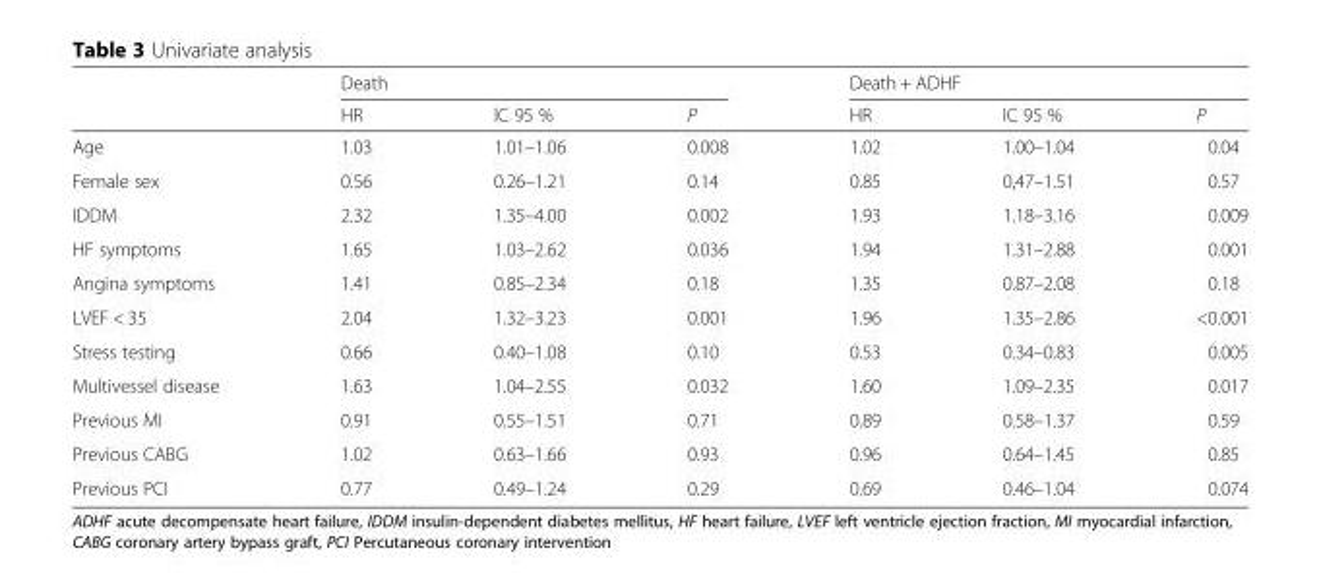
<table><thead><tr><td rowspan="2"></td><td colspan="3">Death</td><td colspan="3">Death + ADHF</td></tr><tr><td>HR</td><td>IC 95 %</td><td>P</td><td>HR</td><td>IC 95 %</td><td>P</td></tr></thead><tbody><tr><td>Age</td><td>1.03</td><td>1.01–1.06</td><td>0.008</td><td>1.02</td><td>1.00–1.04</td><td>0.04</td></tr><tr><td>Female sex</td><td>0.56</td><td>0.26–1.21</td><td>0.14</td><td>0.85</td><td>0,47–1.51</td><td>0.57</td></tr><tr><td>IDDM</td><td>2.32</td><td>1.35–4.00</td><td>0.002</td><td>1.93</td><td>1.18–3.16</td><td>0.009</td></tr><tr><td>HF symptoms</td><td>1.65</td><td>1.03–2.62</td><td>0.036</td><td>1.94</td><td>1.31–2.88</td><td>0.001</td></tr><tr><td>Angina symptoms</td><td>1.41</td><td>0.85–2.34</td><td>0.18</td><td>1.35</td><td>0.87–2.08</td><td>0.18</td></tr><tr><td>LVEF &lt; 35</td><td>2.04</td><td>1.32–3.23</td><td>0.001</td><td>1.96</td><td>1.35–2.86</td><td>&lt;0.001</td></tr><tr><td>Stress testing</td><td>0.66</td><td>0.40–1.08</td><td>0.10</td><td>0.53</td><td>0.34–0.83</td><td>0.005</td></tr><tr><td>Multivessel disease</td><td>1.63</td><td>1.04–2.55</td><td>0.032</td><td>1.60</td><td>1.09–2.35</td><td>0.017</td></tr><tr><td>Previous MI</td><td>0.91</td><td>0.55–1.51</td><td>0.71</td><td>0.89</td><td>0.58–1.37</td><td>0.59</td></tr><tr><td>Previous CABG</td><td>1.02</td><td>0.63–1.66</td><td>0.93</td><td>0.96</td><td>0.64–1.45</td><td>0.85</td></tr><tr><td>Previous PCI</td><td>0.77</td><td>0.49–1.24</td><td>0.29</td><td>0.69</td><td>0.46–1.04</td><td>0.074</td></tr></tbody></table>